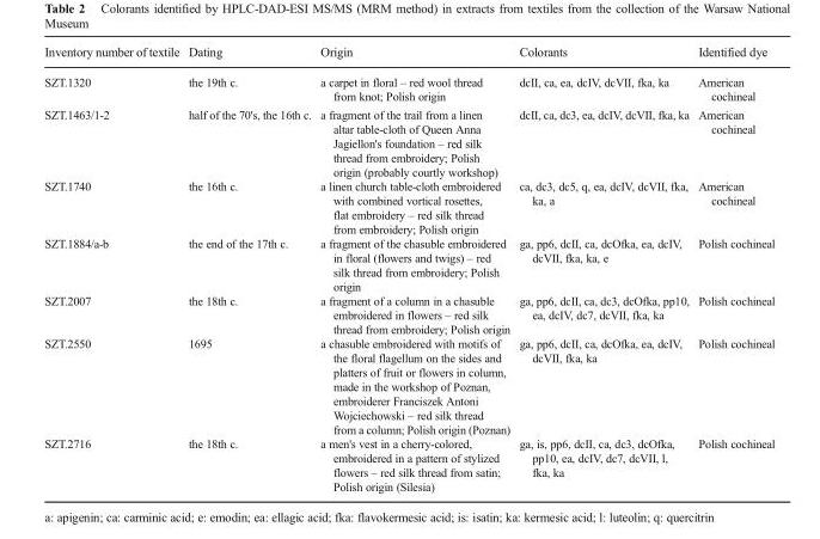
<table><thead><tr><td>Inventory number of textile</td><td>Dating</td><td>Origin</td><td>Colorants</td><td>Identified dye</td></tr></thead><tbody><tr><td>SZT.1320</td><td>the 19th c.</td><td>a carpet in floral – red wool thread from knot; Polish origin</td><td>dcII, ca, ea, dcIV, dcVII, fka, ka</td><td>American cochineal</td></tr><tr><td>SZT.1463/1-2</td><td>half of the 70&#x27;s, the 16th c.</td><td>a fragment of the trail from a linen altar table-cloth of Queen Anna Jagiellon&#x27;s foundation – red silk thread from embroidery; Polish origin (probably courtly workshop)</td><td>dcII, ca, dc3, ea, dcIV, dcVII, fka, ka</td><td>American cochineal</td></tr><tr><td>SZT.1740</td><td>the 16th c.</td><td>a linen church table-cloth embroidered with combined vortical rosettes, flat embroidery – red silk thread from embroidery; Polish origin</td><td>ca, dc3, dc5, q, ea, dcIV, dcVII, fka, ka, a</td><td>American cochineal</td></tr><tr><td>SZT.1884/a-b</td><td>the end of the 17th c.</td><td>a fragment of the chasuble embroidered in floral (flowers and twigs) – red silk thread from embroidery; Polish origin</td><td>ga, pp6, dcII, ca, dcOfka, ea, dcIV, dcVII, fka, ka, e</td><td>Polish cochineal</td></tr><tr><td>SZT.2007</td><td>the 18th c.</td><td>a fragment of a column in a chasuble embroidered in flowers – red silk thread from embroidery; Polish origin</td><td>ga, pp6, dcII, ca, dc3, dcOfka, pp10, ea, dcIV, dc7, dcVII, fka, ka</td><td>Polish cochineal</td></tr><tr><td>SZT.2550</td><td>1695</td><td>a chasuble embroidered with motifs of the floral flagellum on the sides and platters of fruit or flowers in column, made in the workshop of Poznan, embroiderer Franciszek Antoni Wojciechowski – red silk thread from a column; Polish origin (Poznan)</td><td>ga, pp6, dcII, ca, dcOfka, ea, dcIV, dcVII, fka, ka</td><td>Polish cochineal</td></tr><tr><td>SZT.2716</td><td>the 18th c.</td><td>a men&#x27;s vest in a cherry-colored, embroidered in a pattern of stylized flowers – red silk thread from satin; Polish origin (Silesia)</td><td>ga, is, pp6, dcII, ca, dc3, dcOfka, pp10, ea, dcIV, dc7, dcVII, l, fka, ka</td><td>Polish cochineal</td></tr></tbody></table>